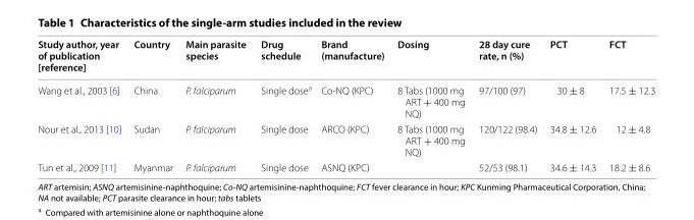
<table><thead><tr><td>Study author, year of publication [reference]</td><td>Country</td><td>Main parasite species</td><td>Drug schedule</td><td>Brand (manufacture)</td><td>Dosing</td><td>28 day cure rate, n (%)</td><td>PCT</td><td>FCT</td></tr></thead><tbody><tr><td>Wang et al., 2003 [6]</td><td>China</td><td>P. falciparum</td><td>Single dose<sup>a</sup></td><td>Co-NQ (KPC)</td><td>8 Tabs (1000 mg ART + 400 mg NQ)</td><td>97/100 (97)</td><td>30 ± 8</td><td>17.5 ± 12.3</td></tr><tr><td>Nour et al., 2013 [10]</td><td>Sudan</td><td>P. falciparum</td><td>Single dose</td><td>ARCO (KPC)</td><td>8 Tabs (1000 mg ART + 400 mg NQ)</td><td>120/122 (98.4)</td><td>34.8 ± 12.6</td><td>12 ± 4.8</td></tr><tr><td>Tun et al., 2009 [11]</td><td>Myanmar</td><td>P. falciparum</td><td>Single dose</td><td>ASNQ (KPC)</td><td></td><td>52/53 (98.1)</td><td>34.6 ± 14.3</td><td>18.2 ± 8.6</td></tr></tbody></table>